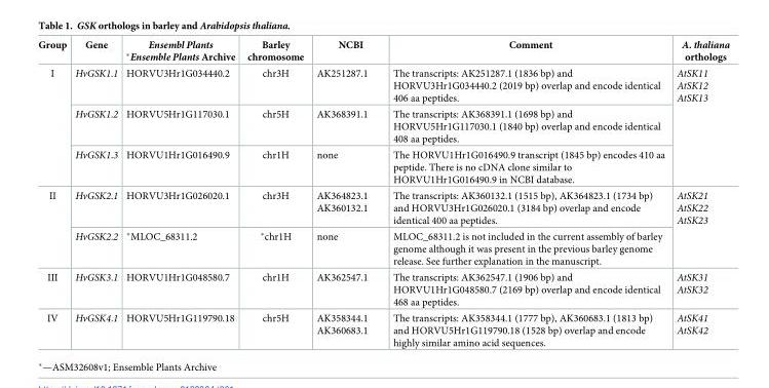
<table><thead><tr><td>Group</td><td>Gene</td><td>Ensembl Plants *Ensemble Plants Archive</td><td>Barley chromosome</td><td>NCBI</td><td>Comment</td><td>A. thaliana orthologs</td></tr></thead><tbody><tr><td rowspan="3">I</td><td>HvGSK1.1</td><td>HORVU3Hr1G034440.2</td><td>chr3H</td><td>AK251287.1</td><td>The transcripts: AK251287.1 (1836 bp) and HORVU3Hr1G034440.2 (2019 bp) overlap and encode identical 406 aa peptides.</td><td rowspan="3">AtSK11 AtSK12 AtSK13</td></tr><tr><td>HvGSK1.2</td><td>HORVU5Hr1G117030.1</td><td>chr5H</td><td>AK368391.1</td><td>The transcripts: AK368391.1 (1698 bp) and HORVU5Hr1G117030.1 (1840 bp) overlap and encode identical 408 aa peptides.</td></tr><tr><td>HvGSK1.3</td><td>HORVU1Hr1G016490.9</td><td>chr1H</td><td>none</td><td>The HORVU1Hr1G016490.9 transcript (1845 bp) encodes 410 aa peptide. There is no cDNA clone similar to HORVU1Hr1G016490.9 in NCBI database.</td></tr><tr><td rowspan="2">II</td><td>HvGSK2.1</td><td>HORVU3Hr1G026020.1</td><td>chr3H</td><td>AK364823.1 AK360132.1</td><td>The transcripts: AK360132.1 (1515 bp), AK364823.1 (1734 bp) and HORVU3Hr1G026020.1 (3184 bp) overlap and encode identical 400 aa peptides.</td><td rowspan="2">AtSK21 AtSK22 AtSK23</td></tr><tr><td>HvGSK2.2</td><td>*MLOC_68311.2</td><td>*chr1H</td><td>none</td><td>MLOC_68311.2 is not included in the current assembly of barley genome although it was present in the previous barley genome release. See further explanation in the manuscript.</td></tr><tr><td>III</td><td>HvGSK3.1</td><td>HORVU1Hr1G048580.7</td><td>chr1H</td><td>AK362547.1</td><td>The transcripts: AK362547.1 (1906 bp) and HORVU1Hr1G048580.7 (2169 bp) overlap and encode identical 468 aa peptides.</td><td>AtSK31 AtSK32</td></tr><tr><td>IV</td><td>HvGSK4.1</td><td>HORVU5Hr1G119790.18</td><td>chr5H</td><td>AK358344.1 AK360683.1</td><td>The transcripts: AK358344.1 (1777 bp), AK360683.1 (1813 bp) and HORVU5Hr1G119790.18 (1528 bp) overlap and encode highly similar amino acid sequences.</td><td>AtSK41 AtSK42</td></tr></tbody></table>